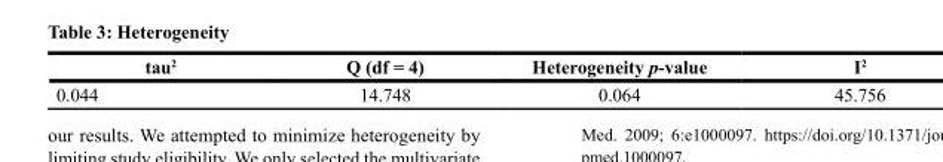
<table><thead><tr><td>tau<sup>2</sup></td><td>Q (df = 4)</td><td>Heterogeneity p-value</td><td>I<sup>2</sup></td></tr></thead><tbody><tr><td>0.044</td><td>14.748</td><td>0.064</td><td>45.756</td></tr></tbody></table>